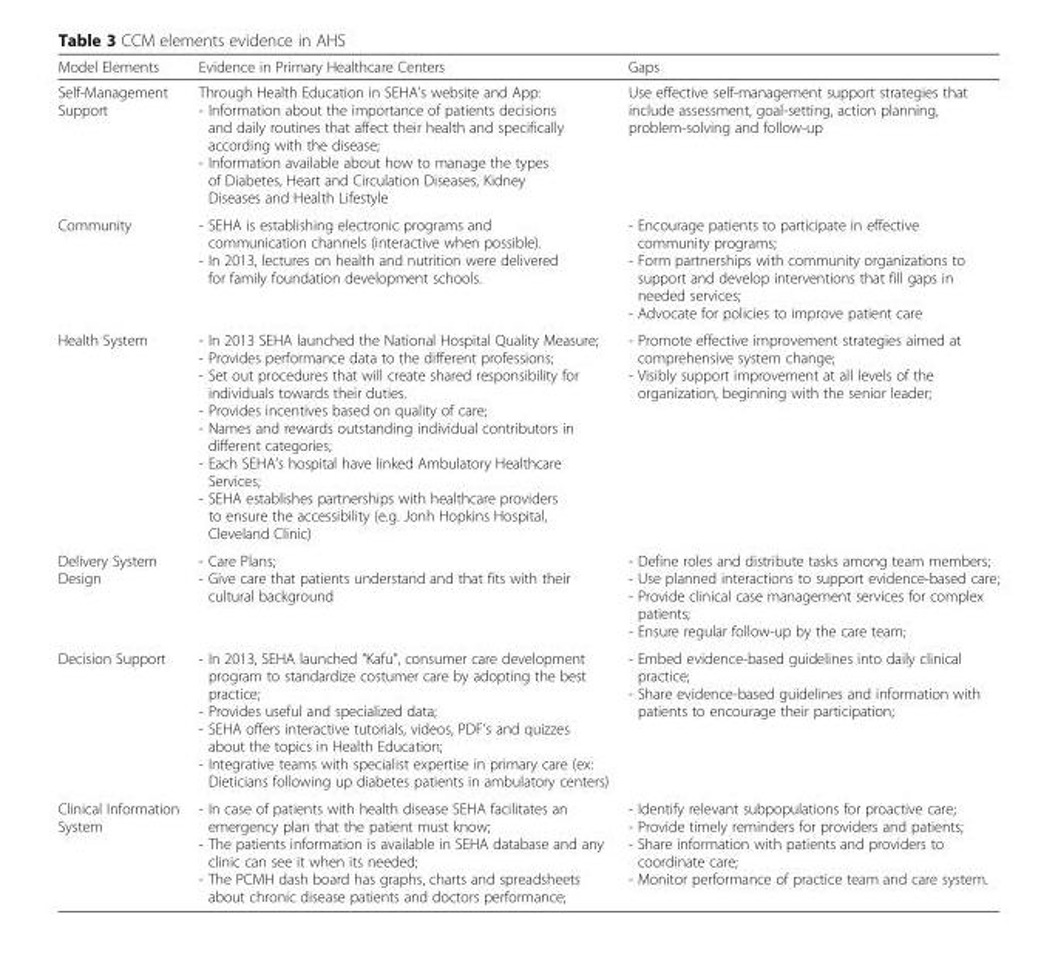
<table><thead><tr><td>Model Elements</td><td>Evidence in Primary Healthcare Centers</td><td>Gaps</td></tr></thead><tbody><tr><td>Self-Management Support</td><td>Through Health Education in SEHA’s website and App: - Information about the importance of patients decisions and daily routines that affect their health and specifically according with the disease; - Information available about how to manage the types of Diabetes, Heart and Circulation Diseases, Kidney Diseases and Health Lifestyle</td><td>Use effective self-management support strategies that include assessment, goal-setting, action planning, problem-solving and follow-up</td></tr><tr><td>Community</td><td>- SEHA is establishing electronic programs and communication channels (interactive when possible). - In 2013, lectures on health and nutrition were delivered for family foundation development schools.</td><td>- Encourage patients to participate in effective community programs; - Form partnerships with community organizations to support and develop interventions that fill gaps in needed services; - Advocate for policies to improve patient care</td></tr><tr><td>Health System</td><td>- In 2013 SEHA launched the National Hospital Quality Measure; - Provides performance data to the different professions; - Set out procedures that will create shared responsibility for individuals towards their duties. - Provides incentives based on quality of care; - Names and rewards outstanding individual contributors in different categories; - Each SEHA’s hospital have linked Ambulatory Healthcare Services; - SEHA establishes partnerships with healthcare providers to ensure the accessibility (e.g. Jonh Hopkins Hospital, Cleveland Clinic)</td><td>- Promote effective improvement strategies aimed at comprehensive system change; - Visibly support improvement at all levels of the organization, beginning with the senior leader;</td></tr><tr><td>Delivery System Design</td><td>- Care Plans; - Give care that patients understand and that fits with their cultural background</td><td>- Define roles and distribute tasks among team members; - Use planned interactions to support evidence-based care; - Provide clinical case management services for complex patients; - Ensure regular follow-up by the care team;</td></tr><tr><td>Decision Support</td><td>- In 2013, SEHA launched “Kafu”, consumer care development program to standardize costumer care by adopting the best practice; - Provides useful and specialized data; - SEHA offers interactive tutorials, videos, PDF’s and quizzes about the topics in Health Education; - Integrative teams with specialist expertise in primary care (ex: Dieticians following up diabetes patients in ambulatory centers)</td><td>- Embed evidence-based guidelines into daily clinical practice; - Share evidence-based guidelines and information with patients to encourage their participation;</td></tr><tr><td>Clinical Information System</td><td>- In case of patients with health disease SEHA facilitates an emergency plan that the patient must know; - The patients information is available in SEHA database and any clinic can see it when its needed; - The PCMH dash board has graphs, charts and spreadsheets about chronic disease patients and doctors performance;</td><td>- Identify relevant subpopulations for proactive care; - Provide timely reminders for providers and patients; - Share information with patients and providers to coordinate care; - Monitor performance of practice team and care system.</td></tr></tbody></table>